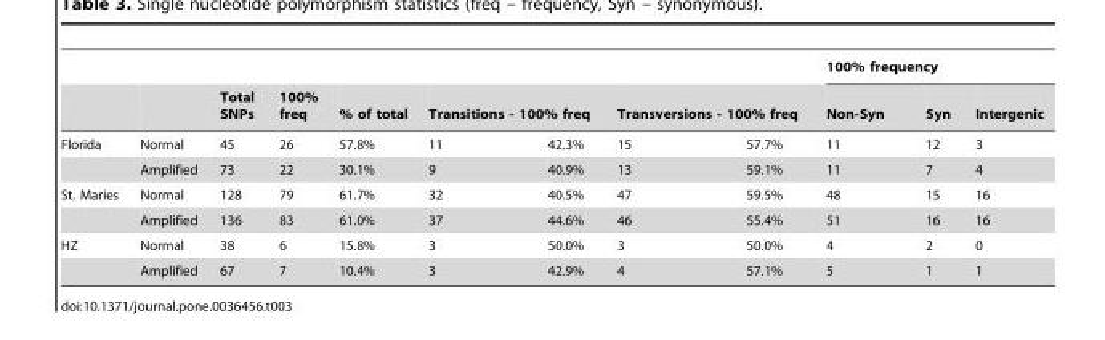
<table><thead><tr><td rowspan="2"></td><td rowspan="2"></td><td rowspan="2">Total SNPs</td><td rowspan="2">100% freq</td><td rowspan="2">% of total</td><td></td><td></td><td></td><td></td><td colspan="3">100% frequency</td></tr><tr><td colspan="2">Transitions - 100% freq</td><td colspan="2">Transversions - 100% freq</td><td>Non-Syn</td><td>Syn</td><td>Intergenic</td></tr></thead><tbody><tr><td rowspan="2">Florida</td><td>Normal</td><td>45</td><td>26</td><td>57.8%</td><td>11</td><td>42.3%</td><td>15</td><td>57.7%</td><td>11</td><td>12</td><td>3</td></tr><tr><td>Amplified</td><td>73</td><td>22</td><td>30.1%</td><td>9</td><td>40.9%</td><td>13</td><td>59.1%</td><td>11</td><td>7</td><td>4</td></tr><tr><td rowspan="2">St. Maries</td><td>Normal</td><td>128</td><td>79</td><td>61.7%</td><td>32</td><td>40.5%</td><td>47</td><td>59.5%</td><td>48</td><td>15</td><td>16</td></tr><tr><td>Amplified</td><td>136</td><td>83</td><td>61.0%</td><td>37</td><td>44.6%</td><td>46</td><td>55.4%</td><td>51</td><td>16</td><td>16</td></tr><tr><td rowspan="2">HZ</td><td>Normal</td><td>38</td><td>6</td><td>15.8%</td><td>3</td><td>50.0%</td><td>3</td><td>50.0%</td><td>4</td><td>2</td><td>0</td></tr><tr><td>Amplified</td><td>67</td><td>7</td><td>10.4%</td><td>3</td><td>42.9%</td><td>4</td><td>57.1%</td><td>5</td><td>1</td><td>1</td></tr></tbody></table>